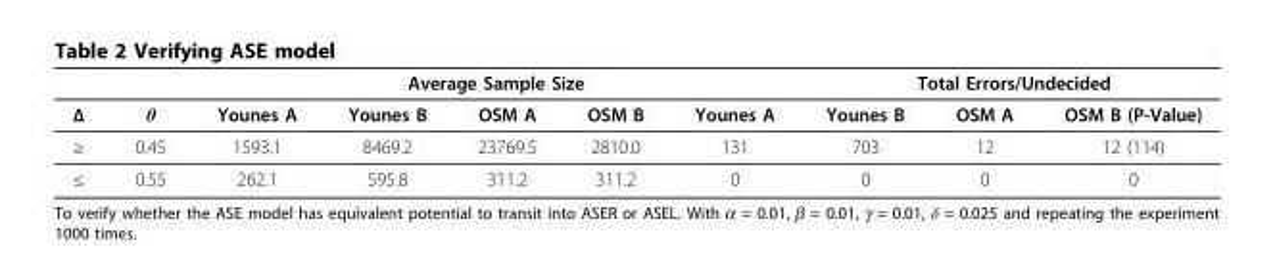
<table><thead><tr><td rowspan="2">Δ</td><td rowspan="2">θ</td><td colspan="5">Average Sample Size</td><td colspan="3">Total Errors/Undecided</td></tr><tr><td>Younes A</td><td>Younes B</td><td>OSM A</td><td>OSM B</td><td>Younes A</td><td>Younes B</td><td>OSM A</td><td>OSM B (P-Value)</td></tr></thead><tbody><tr><td>≥</td><td>0.45</td><td>1593.1</td><td>8469.2</td><td>23769.5</td><td>2810.0</td><td>131</td><td>703</td><td>12</td><td>12 (114)</td></tr><tr><td>≤</td><td>0.55</td><td>262.1</td><td>595.8</td><td>311.2</td><td>311.2</td><td>0</td><td>0</td><td>0</td><td>0</td></tr></tbody></table>